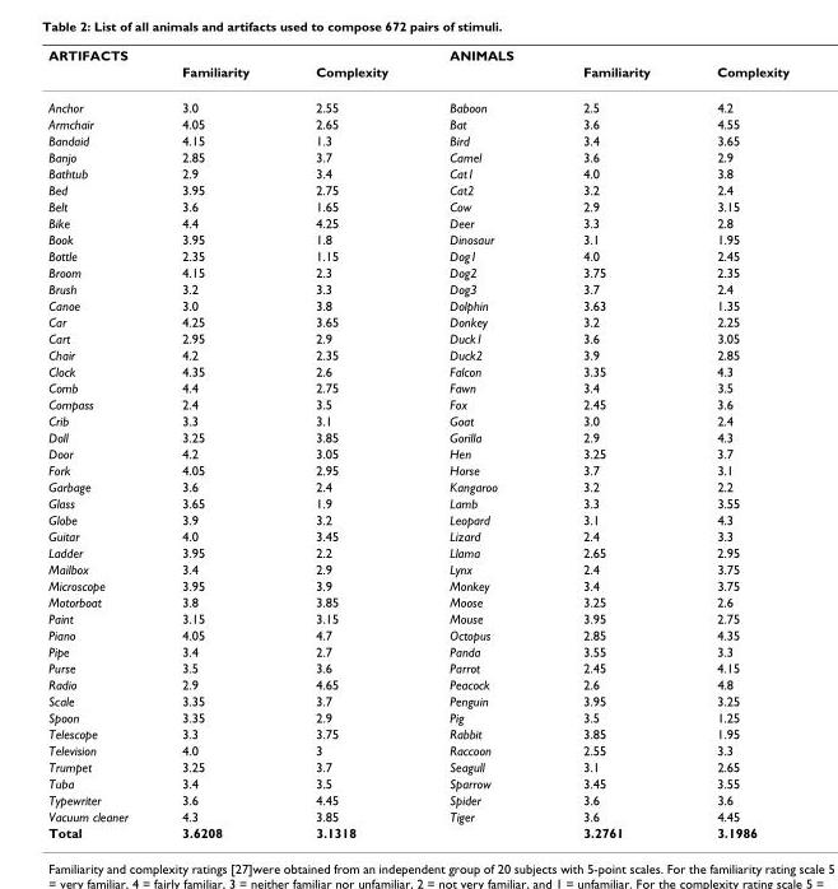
<table><thead><tr><td rowspan="2">ARTIFACTS</td><td rowspan="2">Familiarity</td><td rowspan="2">Complexity</td><td rowspan="2">ANIMALS</td><td rowspan="2">Familiarity</td><td rowspan="2">Complexity</td></tr><tr></tr></thead><tbody><tr><td>Anchor</td><td>3.0</td><td>2.55</td><td>Baboon</td><td>2.5</td><td>4.2</td></tr><tr><td>Armchair</td><td>4.05</td><td>2.65</td><td>Bat</td><td>3.6</td><td>4.55</td></tr><tr><td>Bandaid</td><td>4.15</td><td>1.3</td><td>Bird</td><td>3.4</td><td>3.65</td></tr><tr><td>Banjo</td><td>2.85</td><td>3.7</td><td>Camel</td><td>3.6</td><td>2.9</td></tr><tr><td>Bathtub</td><td>2.9</td><td>3.4</td><td>Cat1</td><td>4.0</td><td>3.8</td></tr><tr><td>Bed</td><td>3.95</td><td>2.75</td><td>Cat2</td><td>3.2</td><td>2.4</td></tr><tr><td>Belt</td><td>3.6</td><td>1.65</td><td>Cow</td><td>2.9</td><td>3.15</td></tr><tr><td>Bike</td><td>4.4</td><td>4.25</td><td>Deer</td><td>3.3</td><td>2.8</td></tr><tr><td>Book</td><td>3.95</td><td>1.8</td><td>Dinosaur</td><td>3.1</td><td>1.95</td></tr><tr><td>Bottle</td><td>2.35</td><td>1.15</td><td>Dog1</td><td>4.0</td><td>2.45</td></tr><tr><td>Broom</td><td>4.15</td><td>2.3</td><td>Dog2</td><td>3.75</td><td>2.35</td></tr><tr><td>Brush</td><td>3.2</td><td>3.3</td><td>Dog3</td><td>3.7</td><td>2.4</td></tr><tr><td>Canoe</td><td>3.0</td><td>3.8</td><td>Dolphin</td><td>3.63</td><td>1.35</td></tr><tr><td>Car</td><td>4.25</td><td>3.65</td><td>Donkey</td><td>3.2</td><td>2.25</td></tr><tr><td>Cart</td><td>2.95</td><td>2.9</td><td>Duck1</td><td>3.6</td><td>3.05</td></tr><tr><td>Chair</td><td>4.2</td><td>2.35</td><td>Duck2</td><td>3.9</td><td>2.85</td></tr><tr><td>Clock</td><td>4.35</td><td>2.6</td><td>Falcon</td><td>3.35</td><td>4.3</td></tr><tr><td>Comb</td><td>4.4</td><td>2.75</td><td>Fawn</td><td>3.4</td><td>3.5</td></tr><tr><td>Compass</td><td>2.4</td><td>3.5</td><td>Fox</td><td>2.45</td><td>3.6</td></tr><tr><td>Crib</td><td>3.3</td><td>3.1</td><td>Goat</td><td>3.0</td><td>2.4</td></tr><tr><td>Doll</td><td>3.25</td><td>3.85</td><td>Gorilla</td><td>2.9</td><td>4.3</td></tr><tr><td>Door</td><td>4.2</td><td>3.05</td><td>Hen</td><td>3.25</td><td>3.7</td></tr><tr><td>Fork</td><td>4.05</td><td>2.95</td><td>Horse</td><td>3.7</td><td>3.1</td></tr><tr><td>Garbage</td><td>3.6</td><td>2.4</td><td>Kangaroo</td><td>3.2</td><td>2.2</td></tr><tr><td>Glass</td><td>3.65</td><td>1.9</td><td>Lamb</td><td>3.3</td><td>3.55</td></tr><tr><td>Globe</td><td>3.9</td><td>3.2</td><td>Leopard</td><td>3.1</td><td>4.3</td></tr><tr><td>Guitar</td><td>4.0</td><td>3.45</td><td>Lizard</td><td>2.4</td><td>3.3</td></tr><tr><td>Ladder</td><td>3.95</td><td>2.2</td><td>Llama</td><td>2.65</td><td>2.95</td></tr><tr><td>Mailbox</td><td>3.4</td><td>2.9</td><td>Lynx</td><td>2.4</td><td>3.75</td></tr><tr><td>Microscope</td><td>3.95</td><td>3.9</td><td>Monkey</td><td>3.4</td><td>3.75</td></tr><tr><td>Motorboat</td><td>3.8</td><td>3.85</td><td>Moose</td><td>3.25</td><td>2.6</td></tr><tr><td>Paint</td><td>3.15</td><td>3.15</td><td>Mouse</td><td>3.95</td><td>2.75</td></tr><tr><td>Piano</td><td>4.05</td><td>4.7</td><td>Octopus</td><td>2.85</td><td>4.35</td></tr><tr><td>Pipe</td><td>3.4</td><td>2.7</td><td>Panda</td><td>3.55</td><td>3.3</td></tr><tr><td>Purse</td><td>3.5</td><td>3.6</td><td>Parrot</td><td>2.45</td><td>4.15</td></tr><tr><td>Radio</td><td>2.9</td><td>4.65</td><td>Peacock</td><td>2.6</td><td>4.8</td></tr><tr><td>Scale</td><td>3.35</td><td>3.7</td><td>Penguin</td><td>3.95</td><td>3.25</td></tr><tr><td>Spoon</td><td>3.35</td><td>2.9</td><td>Pig</td><td>3.5</td><td>1.25</td></tr><tr><td>Telescope</td><td>3.3</td><td>3.75</td><td>Rabbit</td><td>3.85</td><td>1.95</td></tr><tr><td>Television</td><td>4.0</td><td>3</td><td>Raccoon</td><td>2.55</td><td>3.3</td></tr><tr><td>Trumpet</td><td>3.25</td><td>3.7</td><td>Seagull</td><td>3.1</td><td>2.65</td></tr><tr><td>Tuba</td><td>3.4</td><td>3.5</td><td>Sparrow</td><td>3.45</td><td>3.55</td></tr><tr><td>Typewriter</td><td>3.6</td><td>4.45</td><td>Spider</td><td>3.6</td><td>3.6</td></tr><tr><td>Vacuum cleaner</td><td>4.3</td><td>3.85</td><td>Tiger</td><td>3.6</td><td>4.45</td></tr><tr><td>Total</td><td>3.6208</td><td>3.1318</td><td></td><td>3.2761</td><td>3.1986</td></tr></tbody></table>